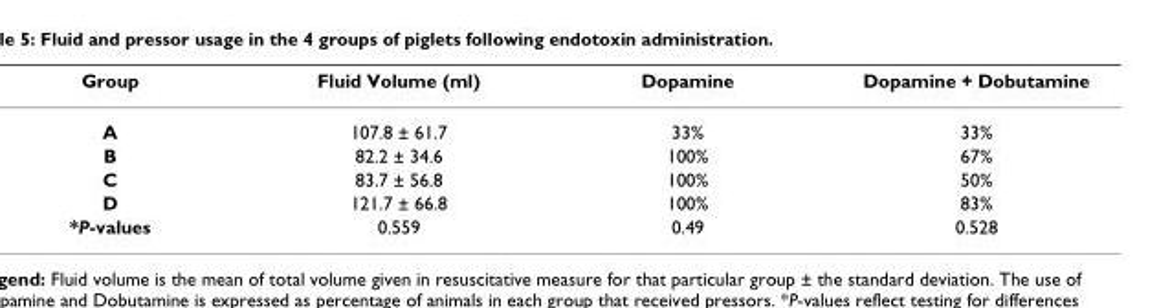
<table><thead><tr><td>Group</td><td>Fluid Volume (ml)</td><td>Dopamine</td><td>Dopamine + Dobutamine</td></tr></thead><tbody><tr><td>A</td><td>107.8 ± 61.7</td><td>33%</td><td>33%</td></tr><tr><td>B</td><td>82.2 ± 34.6</td><td>100%</td><td>67%</td></tr><tr><td>C</td><td>83.7 ± 56.8</td><td>100%</td><td>50%</td></tr><tr><td>D</td><td>121.7 ± 66.8</td><td>100%</td><td>83%</td></tr><tr><td>*P-values</td><td>0.559</td><td>0.49</td><td>0.528</td></tr></tbody></table>